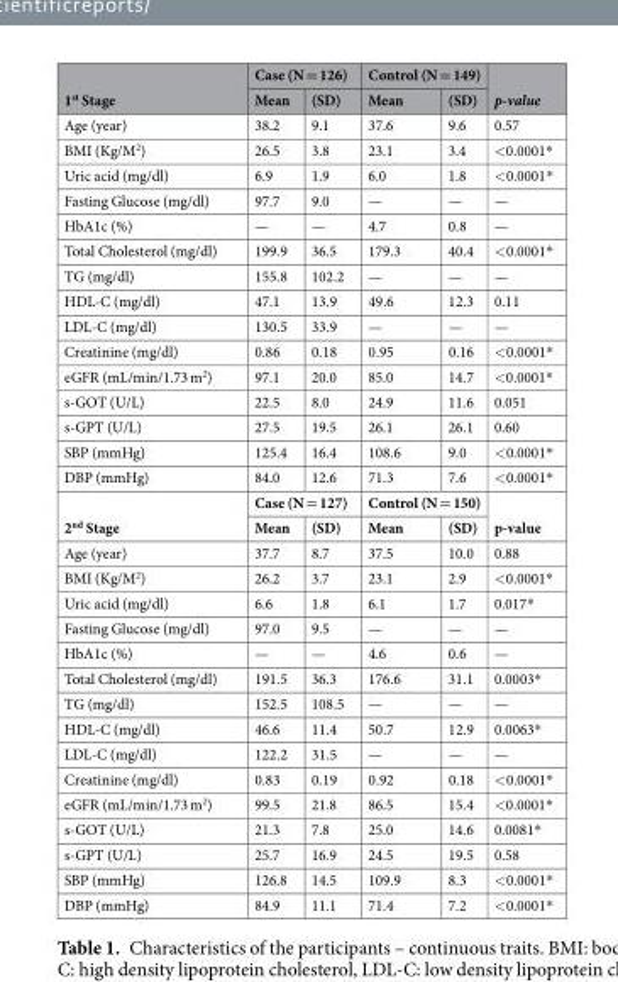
<table><thead><tr><td rowspan="2">1<sup>st</sup> Stage</td><td colspan="2">Case (N = 126)</td><td colspan="2">Control (N = 149)</td><td rowspan="2">p-value</td></tr><tr><td>Mean</td><td>(SD)</td><td>Mean</td><td>(SD)</td></tr></thead><tbody><tr><td>Age (year)</td><td>38.2</td><td>9.1</td><td>37.6</td><td>9.6</td><td>0.57</td></tr><tr><td>BMI (Kg/M<sup>2</sup>)</td><td>26.5</td><td>3.8</td><td>23.1</td><td>3.4</td><td>&lt;0.0001*</td></tr><tr><td>Uric acid (mg/dl)</td><td>6.9</td><td>1.9</td><td>6.0</td><td>1.8</td><td>&lt;0.0001*</td></tr><tr><td>Fasting Glucose (mg/dl)</td><td>97.7</td><td>9.0</td><td>—</td><td>—</td><td>—</td></tr><tr><td>HbA1c (%)</td><td>—</td><td>—</td><td>4.7</td><td>0.8</td><td>—</td></tr><tr><td>Total Cholesterol (mg/dl)</td><td>199.9</td><td>36.5</td><td>179.3</td><td>40.4</td><td>&lt;0.0001*</td></tr><tr><td>TG (mg/dl)</td><td>155.8</td><td>102.2</td><td>—</td><td>—</td><td>—</td></tr><tr><td>HDL-C (mg/dl)</td><td>47.1</td><td>13.9</td><td>49.6</td><td>12.3</td><td>0.11</td></tr><tr><td>LDL-C (mg/dl)</td><td>130.5</td><td>33.9</td><td>—</td><td>—</td><td>—</td></tr><tr><td>Creatinine (mg/dl)</td><td>0.86</td><td>0.18</td><td>0.95</td><td>0.16</td><td>&lt;0.0001*</td></tr><tr><td>eGFR (mL/min/1.73 m<sup>2</sup>)</td><td>97.1</td><td>20.0</td><td>85.0</td><td>14.7</td><td>&lt;0.0001*</td></tr><tr><td>s-GOT (U/L)</td><td>22.5</td><td>8.0</td><td>24.9</td><td>11.6</td><td>0.051</td></tr><tr><td>s-GPT (U/L)</td><td>27.5</td><td>19.5</td><td>26.1</td><td>26.1</td><td>0.60</td></tr><tr><td>SBP (mmHg)</td><td>125.4</td><td>16.4</td><td>108.6</td><td>9.0</td><td>&lt;0.0001*</td></tr><tr><td>DBP (mmHg)</td><td>84.0</td><td>12.6</td><td>71.3</td><td>7.6</td><td>&lt;0.0001*</td></tr><tr><td rowspan="2">2<sup>nd</sup> Stage</td><td colspan="2">Case (N = 127)</td><td colspan="2">Control (N = 150)</td><td rowspan="2">p-value</td></tr><tr><td>Mean</td><td>(SD)</td><td>Mean</td><td>(SD)</td></tr><tr><td>Age (year)</td><td>37.7</td><td>8.7</td><td>37.5</td><td>10.0</td><td>0.88</td></tr><tr><td>BMI (Kg/M<sup>2</sup>)</td><td>26.2</td><td>3.7</td><td>23.1</td><td>2.9</td><td>&lt;0.0001*</td></tr><tr><td>Uric acid (mg/dl)</td><td>6.6</td><td>1.8</td><td>6.1</td><td>1.7</td><td>0.017*</td></tr><tr><td>Fasting Glucose (mg/dl)</td><td>97.0</td><td>9.5</td><td>—</td><td>—</td><td>—</td></tr><tr><td>HbA1c (%)</td><td>—</td><td>—</td><td>4.6</td><td>0.6</td><td>—</td></tr><tr><td>Total Cholesterol (mg/dl)</td><td>191.5</td><td>36.3</td><td>176.6</td><td>31.1</td><td>0.0003*</td></tr><tr><td>TG (mg/dl)</td><td>152.5</td><td>108.5</td><td>—</td><td>—</td><td>—</td></tr><tr><td>HDL-C (mg/dl)</td><td>46.6</td><td>11.4</td><td>50.7</td><td>12.9</td><td>0.0063*</td></tr><tr><td>LDL-C (mg/dl)</td><td>122.2</td><td>31.5</td><td>—</td><td>—</td><td>—</td></tr><tr><td>Creatinine (mg/dl)</td><td>0.83</td><td>0.19</td><td>0.92</td><td>0.18</td><td>&lt;0.0001*</td></tr><tr><td>eGFR (mL/min/1.73 m<sup>2</sup>)</td><td>99.5</td><td>21.8</td><td>86.5</td><td>15.4</td><td>&lt;0.0001*</td></tr><tr><td>s-GOT (U/L)</td><td>21.3</td><td>7.8</td><td>25.0</td><td>14.6</td><td>0.0081*</td></tr><tr><td>s-GPT (U/L)</td><td>25.7</td><td>16.9</td><td>24.5</td><td>19.5</td><td>0.58</td></tr><tr><td>SBP (mmHg)</td><td>126.8</td><td>14.5</td><td>109.9</td><td>8.3</td><td>&lt;0.0001*</td></tr><tr><td>DBP (mmHg)</td><td>84.9</td><td>11.1</td><td>71.4</td><td>7.2</td><td>&lt;0.0001*</td></tr></tbody></table>